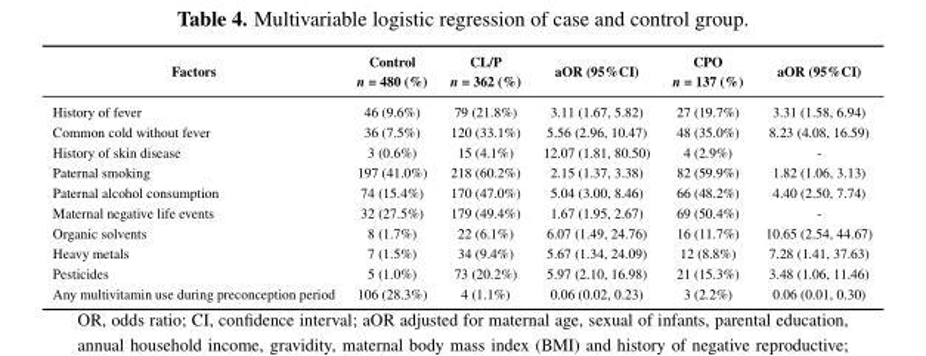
<table><thead><tr><td>Factors</td><td>Control n = 480 (%)</td><td>CL/P n = 362 (%)</td><td>aOR (95%CI)</td><td>CPO n = 137 (%)</td><td>aOR (95%CI)</td></tr></thead><tbody><tr><td>History of fever</td><td>46 (9.6%)</td><td>79 (21.8%)</td><td>3.11 (1.67, 5.82)</td><td>27 (19.7%)</td><td>3.31 (1.58, 6.94)</td></tr><tr><td>Common cold without fever</td><td>36 (7.5%)</td><td>120 (33.1%)</td><td>5.56 (2.96, 10.47)</td><td>48 (35.0%)</td><td>8.23 (4.08, 16.59)</td></tr><tr><td>History of skin disease</td><td>3 (0.6%)</td><td>15 (4.1%)</td><td>12.07 (1.81, 80.50)</td><td>4 (2.9%)</td><td>-</td></tr><tr><td>Paternal smoking</td><td>197 (41.0%)</td><td>218 (60.2%)</td><td>2.15 (1.37, 3.38)</td><td>82 (59.9%)</td><td>1.82 (1.06, 3.13)</td></tr><tr><td>Paternal alcohol consumption</td><td>74 (15.4%)</td><td>170 (47.0%)</td><td>5.04 (3.00, 8.46)</td><td>66 (48.2%)</td><td>4.40 (2.50, 7.74)</td></tr><tr><td>Maternal negative life events</td><td>32 (27.5%)</td><td>179 (49.4%)</td><td>1.67 (1.95, 2.67)</td><td>69 (50.4%)</td><td>-</td></tr><tr><td>Organic solvents</td><td>8 (1.7%)</td><td>22 (6.1%)</td><td>6.07 (1.49, 24.76)</td><td>16 (11.7%)</td><td>10.65 (2.54, 44.67)</td></tr><tr><td>Heavy metals</td><td>7 (1.5%)</td><td>34 (9.4%)</td><td>5.67 (1.34, 24.09)</td><td>12 (8.8%)</td><td>7.28 (1.41, 37.63)</td></tr><tr><td>Pesticides</td><td>5 (1.0%)</td><td>73 (20.2%)</td><td>5.97 (2.10, 16.98)</td><td>21 (15.3%)</td><td>3.48 (1.06, 11.46)</td></tr><tr><td>Any multivitamin use during preconception period</td><td>106 (28.3%)</td><td>4 (1.1%)</td><td>0.06 (0.02, 0.23)</td><td>3 (2.2%)</td><td>0.06 (0.01, 0.30)</td></tr></tbody></table>